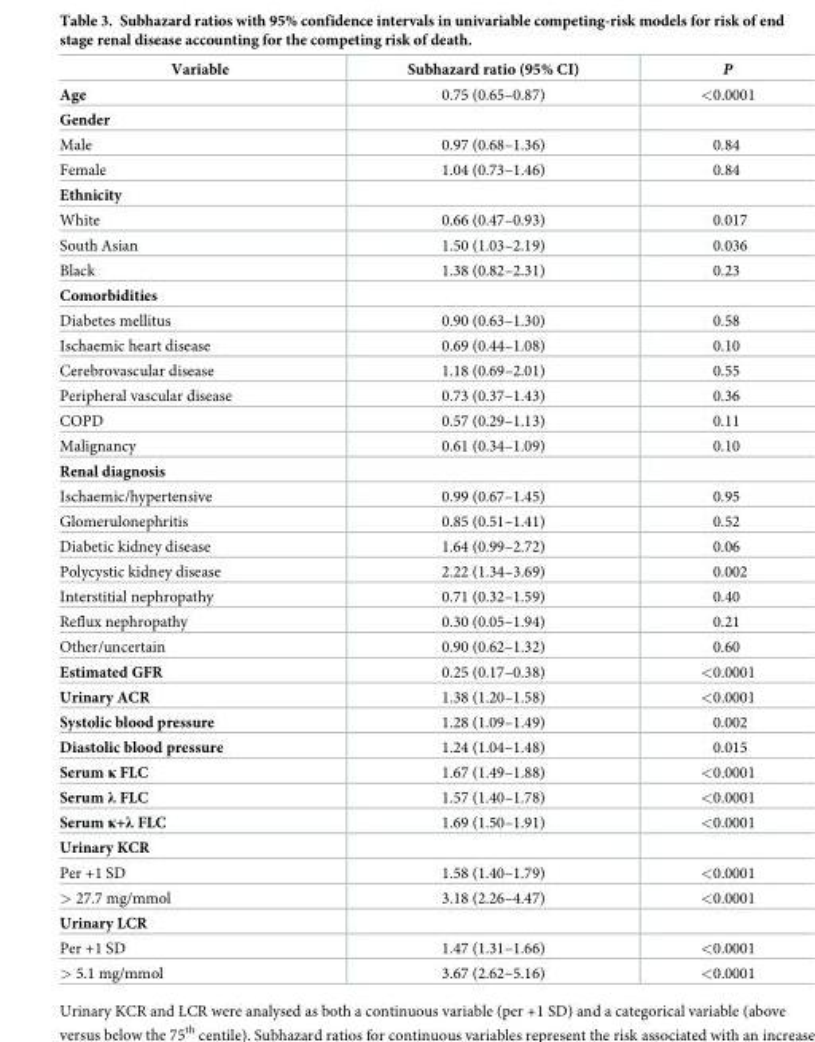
<table><thead><tr><td>Variable</td><td>Subhazard ratio (95% CI)</td><td>P</td></tr></thead><tbody><tr><td>Age</td><td>0.75 (0.65–0.87)</td><td>&lt;0.0001</td></tr><tr><td colspan="3">Gender</td></tr><tr><td>Male</td><td>0.97 (0.68–1.36)</td><td>0.84</td></tr><tr><td>Female</td><td>1.04 (0.73–1.46)</td><td>0.84</td></tr><tr><td colspan="3">Ethnicity</td></tr><tr><td>White</td><td>0.66 (0.47–0.93)</td><td>0.017</td></tr><tr><td>South Asian</td><td>1.50 (1.03–2.19)</td><td>0.036</td></tr><tr><td>Black</td><td>1.38 (0.82–2.31)</td><td>0.23</td></tr><tr><td colspan="3">Comorbidities</td></tr><tr><td>Diabetes mellitus</td><td>0.90 (0.63–1.30)</td><td>0.58</td></tr><tr><td>Ischaemic heart disease</td><td>0.69 (0.44–1.08)</td><td>0.10</td></tr><tr><td>Cerebrovascular disease</td><td>1.18 (0.69–2.01)</td><td>0.55</td></tr><tr><td>Peripheral vascular disease</td><td>0.73 (0.37–1.43)</td><td>0.36</td></tr><tr><td>COPD</td><td>0.57 (0.29–1.13)</td><td>0.11</td></tr><tr><td>Malignancy</td><td>0.61 (0.34–1.09)</td><td>0.10</td></tr><tr><td colspan="3">Renal diagnosis</td></tr><tr><td>Ischaemic/hypertensive</td><td>0.99 (0.67–1.45)</td><td>0.95</td></tr><tr><td>Glomerulonephritis</td><td>0.85 (0.51–1.41)</td><td>0.52</td></tr><tr><td>Diabetic kidney disease</td><td>1.64 (0.99–2.72)</td><td>0.06</td></tr><tr><td>Polycystic kidney disease</td><td>2.22 (1.34–3.69)</td><td>0.002</td></tr><tr><td>Interstitial nephropathy</td><td>0.71 (0.32–1.59)</td><td>0.40</td></tr><tr><td>Reflux nephropathy</td><td>0.30 (0.05–1.94)</td><td>0.21</td></tr><tr><td>Other/uncertain</td><td>0.90 (0.62–1.32)</td><td>0.60</td></tr><tr><td>Estimated GFR</td><td>0.25 (0.17–0.38)</td><td>&lt;0.0001</td></tr><tr><td>Urinary ACR</td><td>1.38 (1.20–1.58)</td><td>&lt;0.0001</td></tr><tr><td>Systolic blood pressure</td><td>1.28 (1.09–1.49)</td><td>0.002</td></tr><tr><td>Diastolic blood pressure</td><td>1.24 (1.04–1.48)</td><td>0.015</td></tr><tr><td>Serum κ FLC</td><td>1.67 (1.49–1.88)</td><td>&lt;0.0001</td></tr><tr><td>Serum λ FLC</td><td>1.57 (1.40–1.78)</td><td>&lt;0.0001</td></tr><tr><td>Serum κ+λ FLC</td><td>1.69 (1.50–1.91)</td><td>&lt;0.0001</td></tr><tr><td colspan="3">Urinary KCR</td></tr><tr><td>Per +1 SD</td><td>1.58 (1.40–1.79)</td><td>&lt;0.0001</td></tr><tr><td>&gt; 27.7 mg/mmol</td><td>3.18 (2.26–4.47)</td><td>&lt;0.0001</td></tr><tr><td colspan="3">Urinary LCR</td></tr><tr><td>Per +1 SD</td><td>1.47 (1.31–1.66)</td><td>&lt;0.0001</td></tr><tr><td>&gt; 5.1 mg/mmol</td><td>3.67 (2.62–5.16)</td><td>&lt;0.0001</td></tr></tbody></table>